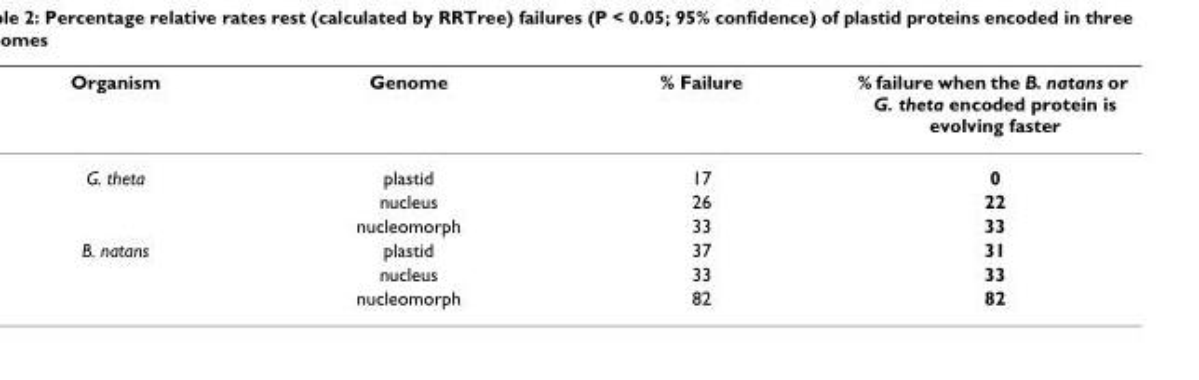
<table><thead><tr><td>Organism</td><td>Genome</td><td>% Failure</td><td>% failure when the B. natans or G. theta encoded protein is evolving faster</td></tr></thead><tbody><tr><td rowspan="3">G. theta</td><td>plastid</td><td>17</td><td>0</td></tr><tr><td>nucleus</td><td>26</td><td>22</td></tr><tr><td>nucleomorph</td><td>33</td><td>33</td></tr><tr><td rowspan="3">B. natans</td><td>plastid</td><td>37</td><td>31</td></tr><tr><td>nucleus</td><td>33</td><td>33</td></tr><tr><td>nucleomorph</td><td>82</td><td>82</td></tr></tbody></table>